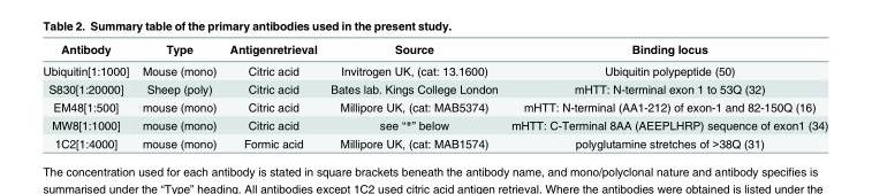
<table><thead><tr><td>Antibody</td><td>Type</td><td>Antigenretrieval</td><td>Source</td><td>Binding locus</td></tr></thead><tbody><tr><td>Ubiquitin[1:1000]</td><td>Mouse (mono)</td><td>Citric acid</td><td>Invitrogen UK, (cat: 13.1600)</td><td>Ubiquitin polypeptide (50)</td></tr><tr><td>S830[1:20000]</td><td>Sheep (poly)</td><td>Citric acid</td><td>Bates lab. Kings College London</td><td>mHTT: N-terminal exon 1 to 53Q (32)</td></tr><tr><td>EM48[1:500]</td><td>mouse (mono)</td><td>Citric acid</td><td>Millipore UK, (cat: MAB5374)</td><td>mHTT: N-terminal (AA1-212) of exon-1 and 82-150Q (16)</td></tr><tr><td>MW8[1:1000]</td><td>mouse (mono)</td><td>Citric acid</td><td>see “*” below</td><td>mHTT: C-Terminal 8AA (AEEPLHRP) sequence of exon1 (34)</td></tr><tr><td>1C2[1:4000]</td><td>mouse (mono)</td><td>Formic acid</td><td>Millipore UK, (cat: MAB1574)</td><td>polyglutamine stretches of &gt;38Q (31)</td></tr></tbody></table>